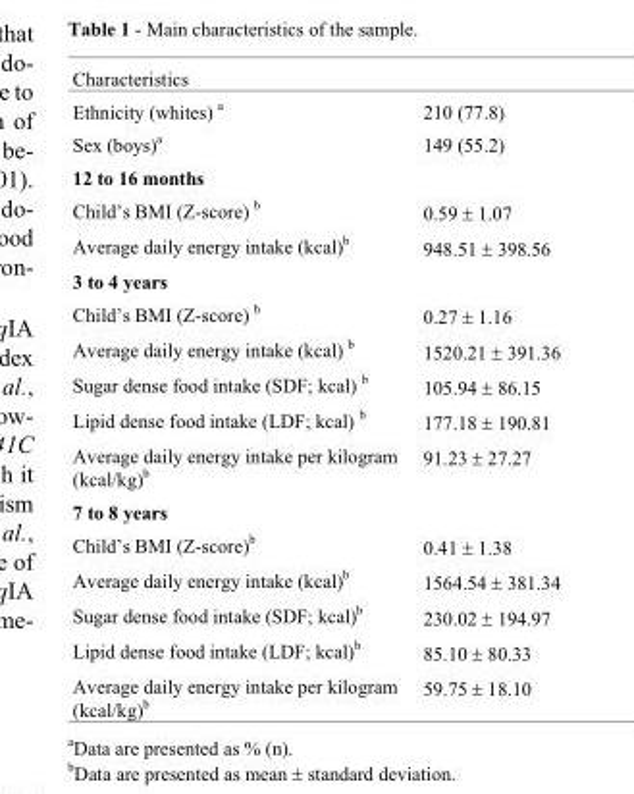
<table><thead><tr><td>Characteristics</td><td></td></tr></thead><tbody><tr><td>Ethnicity (whites) <sup>a</sup></td><td>210 (77.8)</td></tr><tr><td>Sex (boys)<sup>a</sup></td><td>149 (55.2)</td></tr><tr><td colspan="2">12 to 16 months</td></tr><tr><td>Child’s BMI (Z-score) <sup>b</sup></td><td>0.59 ± 1.07</td></tr><tr><td>Average daily energy intake (kcal)<sup>b</sup></td><td>948.51 ± 398.56</td></tr><tr><td colspan="2">3 to 4 years</td></tr><tr><td>Child’s BMI (Z-score) <sup>b</sup></td><td>0.27 ± 1.16</td></tr><tr><td>Average daily energy intake (kcal) <sup>b</sup></td><td>1520.21 ± 391.36</td></tr><tr><td>Sugar dense food intake (SDF; kcal) <sup>b</sup></td><td>105.94 ± 86.15</td></tr><tr><td>Lipid dense food intake (LDF; kcal) <sup>b</sup></td><td>177.18 ± 190.81</td></tr><tr><td>Average daily energy intake per kilogram (kcal/kg)<sup>b</sup></td><td>91.23 ± 27.27</td></tr><tr><td colspan="2">7 to 8 years</td></tr><tr><td>Child’s BMI (Z-score)<sup>b</sup></td><td>0.41 ± 1.38</td></tr><tr><td>Average daily energy intake (kcal)<sup>b</sup></td><td>1564.54 ± 381.34</td></tr><tr><td>Sugar dense food intake (SDF; kcal)<sup>b</sup></td><td>230.02 ± 194.97</td></tr><tr><td>Lipid dense food intake (LDF; kcal)<sup>b</sup></td><td>85.10 ± 80.33</td></tr><tr><td>Average daily energy intake per kilogram (kcal/kg)<sup>b</sup></td><td>59.75 ± 18.10</td></tr></tbody></table>